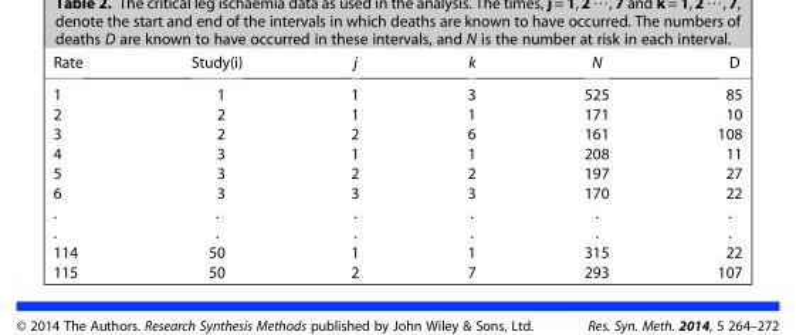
<table><thead><tr><td>Rate</td><td>Study(i)</td><td>j</td><td>k</td><td>N</td><td>D</td></tr></thead><tbody><tr><td>1</td><td>1</td><td>1</td><td>3</td><td>525</td><td>85</td></tr><tr><td>2</td><td>2</td><td>1</td><td>1</td><td>171</td><td>10</td></tr><tr><td>3</td><td>2</td><td>2</td><td>6</td><td>161</td><td>108</td></tr><tr><td>4</td><td>3</td><td>1</td><td>1</td><td>208</td><td>11</td></tr><tr><td>5</td><td>3</td><td>2</td><td>2</td><td>197</td><td>27</td></tr><tr><td>6</td><td>3</td><td>3</td><td>3</td><td>170</td><td>22</td></tr><tr><td>.</td><td>.</td><td>.</td><td>.</td><td>.</td><td>.</td></tr><tr><td>.</td><td>.</td><td>.</td><td>.</td><td>.</td><td>.</td></tr><tr><td>114</td><td>50</td><td>1</td><td>1</td><td>315</td><td>22</td></tr><tr><td>115</td><td>50</td><td>2</td><td>7</td><td>293</td><td>107</td></tr></tbody></table>